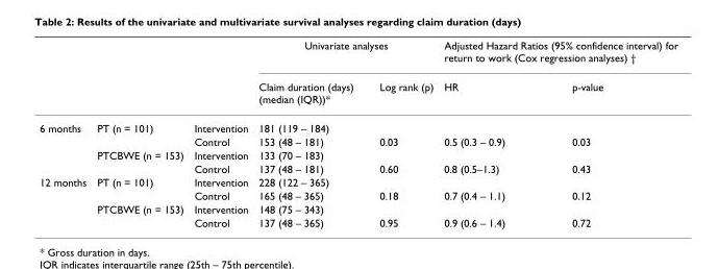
<table><thead><tr><td rowspan="2"></td><td rowspan="2"></td><td rowspan="2"></td><td colspan="2">Univariate analyses</td><td colspan="2">Adjusted Hazard Ratios (95% confidence interval) for return to work (Cox regression analyses) †</td></tr><tr><td>Claim duration (days) (median (IQR))*</td><td>Log rank (p)</td><td>HR</td><td>p-value</td></tr></thead><tbody><tr><td rowspan="4">6 months</td><td>PT (n = 101)</td><td>Intervention</td><td>181 (119 – 184)</td><td></td><td></td><td></td></tr><tr><td></td><td>Control</td><td>153 (48 – 181)</td><td>0.03</td><td>0.5 (0.3 – 0.9)</td><td>0.03</td></tr><tr><td>PTCBWE (n = 153)</td><td>Intervention</td><td>133 (70 – 183)</td><td></td><td></td><td></td></tr><tr><td></td><td>Control</td><td>137 (48 – 181)</td><td>0.60</td><td>0.8 (0.5–1.3)</td><td>0.43</td></tr><tr><td rowspan="4">12 months</td><td>PT (n = 101)</td><td>Intervention</td><td>228 (122 – 365)</td><td></td><td></td><td></td></tr><tr><td></td><td>Control</td><td>165 (48 – 365)</td><td>0.18</td><td>0.7 (0.4 – 1.1)</td><td>0.12</td></tr><tr><td>PTCBWE (n = 153)</td><td>Intervention</td><td>148 (75 – 343)</td><td></td><td></td><td></td></tr><tr><td></td><td>Control</td><td>137 (48 – 365)</td><td>0.95</td><td>0.9 (0.6 – 1.4)</td><td>0.72</td></tr></tbody></table>